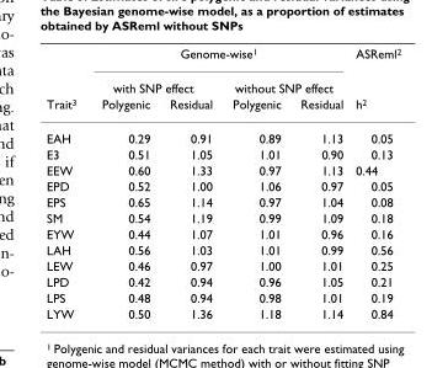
<table><thead><tr><td rowspan="3">Trait<sup>3</sup></td><td colspan="4">Genome-wise<sup>1</sup></td><td rowspan="3">ASReml<sup>2</sup> h<sup>2</sup></td></tr><tr><td colspan="2">with SNP effect</td><td colspan="2">without SNP effect</td></tr><tr><td>Polygenic</td><td>Residual</td><td>Polygenic</td><td>Residual</td></tr></thead><tbody><tr><td>EAH</td><td>0.29</td><td>0.91</td><td>0.89</td><td>1.13</td><td>0.05</td></tr><tr><td>E3</td><td>0.51</td><td>1.05</td><td>1.01</td><td>0.90</td><td>0.13</td></tr><tr><td>EEW</td><td>0.60</td><td>1.33</td><td>0.97</td><td>1.13</td><td>0.44</td></tr><tr><td>EPD</td><td>0.52</td><td>1.00</td><td>1.06</td><td>0.97</td><td>0.05</td></tr><tr><td>EPS</td><td>0.65</td><td>1.14</td><td>0.97</td><td>1.04</td><td>0.08</td></tr><tr><td>SM</td><td>0.54</td><td>1.19</td><td>0.99</td><td>1.09</td><td>0.18</td></tr><tr><td>EYW</td><td>0.44</td><td>1.07</td><td>1.01</td><td>0.96</td><td>0.16</td></tr><tr><td>LAH</td><td>0.56</td><td>1.03</td><td>1.01</td><td>0.99</td><td>0.56</td></tr><tr><td>LEW</td><td>0.46</td><td>0.97</td><td>1.00</td><td>1.01</td><td>0.25</td></tr><tr><td>LPD</td><td>0.42</td><td>0.94</td><td>0.96</td><td>1.05</td><td>0.21</td></tr><tr><td>LPS</td><td>0.48</td><td>0.94</td><td>0.98</td><td>1.01</td><td>0.19</td></tr><tr><td>LYW</td><td>0.50</td><td>1.36</td><td>1.18</td><td>1.14</td><td>0.84</td></tr></tbody></table>